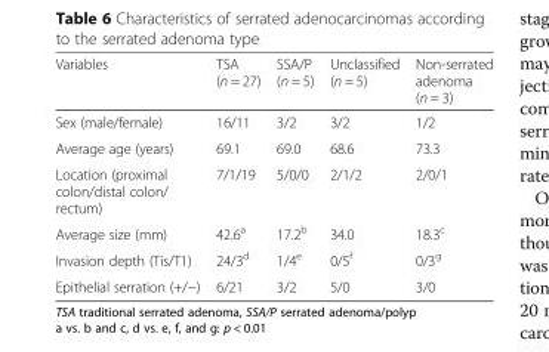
<table><thead><tr><td>Variables</td><td>TSA (n = 27)</td><td>SSA/P (n = 5)</td><td>Unclassified (n = 5)</td><td>Non-serrated adenoma (n = 3)</td></tr></thead><tbody><tr><td>Sex (male/female)</td><td>16/11</td><td>3/2</td><td>3/2</td><td>1/2</td></tr><tr><td>Average age (years)</td><td>69.1</td><td>69.0</td><td>68.6</td><td>73.3</td></tr><tr><td>Location (proximal colon/distal colon/ rectum)</td><td>7/1/19</td><td>5/0/0</td><td>2/1/2</td><td>2/0/1</td></tr><tr><td>Average size (mm)</td><td>42.6<sup>a</sup></td><td>17.2<sup>b</sup></td><td>34.0</td><td>18.3<sup>c</sup></td></tr><tr><td>Invasion depth (Tis/T1)</td><td>24/3<sup>d</sup></td><td>1/4<sup>e</sup></td><td>0/5<sup>f</sup></td><td>0/3<sup>g</sup></td></tr><tr><td>Epithelial serration (+/−)</td><td>6/21</td><td>3/2</td><td>5/0</td><td>3/0</td></tr></tbody></table>